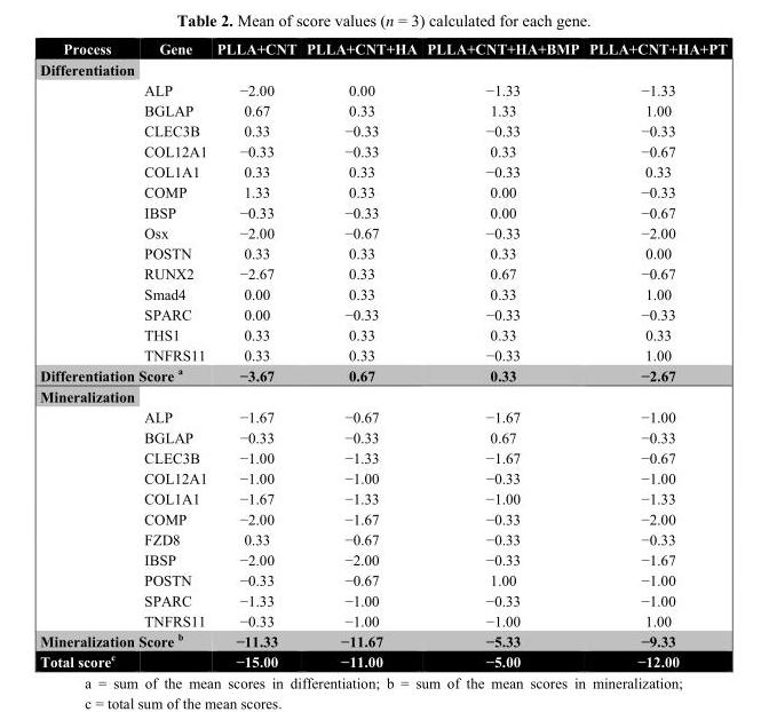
<table><thead><tr><td>Process</td><td>Gene</td><td>PLLA+CNT</td><td>PLLA+CNT+HA</td><td>PLLA+CNT+HA+BMP</td><td>PLLA+CNT+HA+PT</td></tr></thead><tbody><tr><td colspan="6">Differentiation</td></tr><tr><td></td><td>ALP</td><td>−2.00</td><td>0.00</td><td>−1.33</td><td>−1.33</td></tr><tr><td></td><td>BGLAP</td><td>0.67</td><td>0.33</td><td>1.33</td><td>1.00</td></tr><tr><td></td><td>CLEC3B</td><td>0.33</td><td>−0.33</td><td>−0.33</td><td>−0.33</td></tr><tr><td></td><td>COL12A1</td><td>−0.33</td><td>−0.33</td><td>0.33</td><td>−0.67</td></tr><tr><td></td><td>COL1A1</td><td>0.33</td><td>0.33</td><td>−0.33</td><td>0.33</td></tr><tr><td></td><td>COMP</td><td>1.33</td><td>0.33</td><td>0.00</td><td>−0.33</td></tr><tr><td></td><td>IBSP</td><td>−0.33</td><td>−0.33</td><td>0.00</td><td>−0.67</td></tr><tr><td></td><td>Osx</td><td>−2.00</td><td>−0.67</td><td>−0.33</td><td>−2.00</td></tr><tr><td></td><td>POSTN</td><td>0.33</td><td>0.33</td><td>0.33</td><td>0.00</td></tr><tr><td></td><td>RUNX2</td><td>−2.67</td><td>0.33</td><td>0.67</td><td>−0.67</td></tr><tr><td></td><td>Smad4</td><td>0.00</td><td>0.33</td><td>0.33</td><td>1.00</td></tr><tr><td></td><td>SPARC</td><td>0.00</td><td>−0.33</td><td>−0.33</td><td>−0.33</td></tr><tr><td></td><td>THS1</td><td>0.33</td><td>0.33</td><td>0.33</td><td>0.33</td></tr><tr><td></td><td>TNFRS11</td><td>0.33</td><td>0.33</td><td>−0.33</td><td>1.00</td></tr><tr><td colspan="2">Differentiation Score <sup>a</sup></td><td>−3.67</td><td>0.67</td><td>0.33</td><td>−2.67</td></tr><tr><td colspan="6">Mineralization</td></tr><tr><td></td><td>ALP</td><td>−1.67</td><td>−0.67</td><td>−1.67</td><td>−1.00</td></tr><tr><td></td><td>BGLAP</td><td>−0.33</td><td>−0.33</td><td>0.67</td><td>−0.33</td></tr><tr><td></td><td>CLEC3B</td><td>−1.00</td><td>−1.33</td><td>−1.67</td><td>−0.67</td></tr><tr><td></td><td>COL12A1</td><td>−1.00</td><td>−1.00</td><td>−0.33</td><td>−1.00</td></tr><tr><td></td><td>COL1A1</td><td>−1.67</td><td>−1.33</td><td>−1.00</td><td>−1.33</td></tr><tr><td></td><td>COMP</td><td>−2.00</td><td>−1.67</td><td>−0.33</td><td>−2.00</td></tr><tr><td></td><td>FZD8</td><td>0.33</td><td>−0.67</td><td>−0.33</td><td>−0.33</td></tr><tr><td></td><td>IBSP</td><td>−2.00</td><td>−2.00</td><td>−0.33</td><td>−1.67</td></tr><tr><td></td><td>POSTN</td><td>−0.33</td><td>−0.67</td><td>1.00</td><td>−1.00</td></tr><tr><td></td><td>SPARC</td><td>−1.33</td><td>−1.00</td><td>−0.33</td><td>−1.00</td></tr><tr><td></td><td>TNFRS11</td><td>−0.33</td><td>−1.00</td><td>−1.00</td><td>1.00</td></tr><tr><td colspan="2">Mineralization Score <sup>b</sup></td><td>−11.33</td><td>−11.67</td><td>−5.33</td><td>−9.33</td></tr><tr><td colspan="2">Total score<sup>c</sup></td><td>−15.00</td><td>−11.00</td><td>−5.00</td><td>−12.00</td></tr></tbody></table>